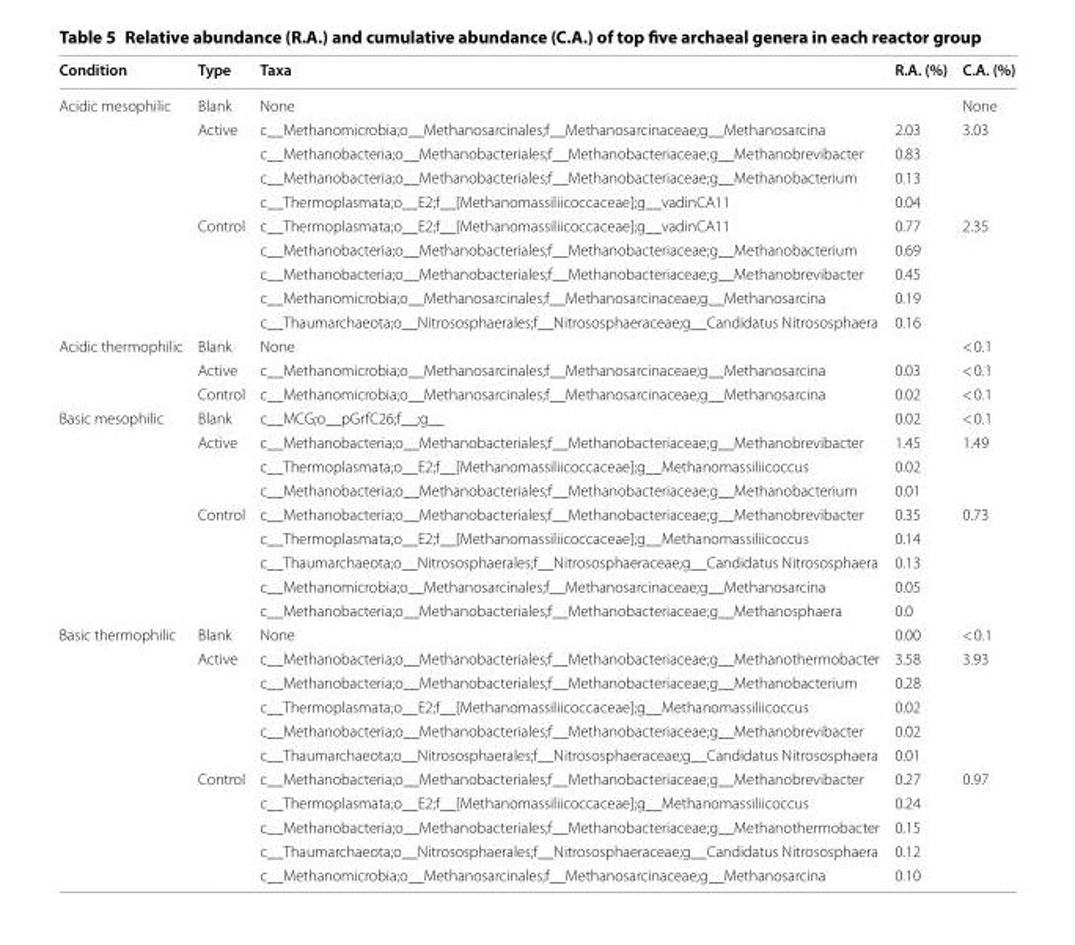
<table><thead><tr><td>Condition</td><td>Type</td><td>Taxa</td><td>R.A. (%)</td><td>C.A. (%)</td></tr></thead><tbody><tr><td rowspan="10">Acidic mesophilic</td><td>Blank</td><td>None</td><td></td><td>None</td></tr><tr><td rowspan="4">Active</td><td>c__Methanomicrobia;o__Methanosarcinales;f__Methanosarcinaceae;g__Methanosarcina</td><td>2.03</td><td rowspan="4">3.03</td></tr><tr><td>c__Methanobacteria;o__Methanobacteriales;f__Methanobacteriaceae;g__Methanobrevibacter</td><td>0.83</td></tr><tr><td>c__Methanobacteria;o__Methanobacteriales;f__Methanobacteriaceae;g__Methanobacterium</td><td>0.13</td></tr><tr><td>c__Thermoplasmata;o__E2;f__[Methanomassiliicoccaceae];g__vadinCA11</td><td>0.04</td></tr><tr><td rowspan="5">Control</td><td>c__Thermoplasmata;o__E2;f__[Methanomassiliicoccaceae];g__vadinCA11</td><td>0.77</td><td rowspan="5">2.35</td></tr><tr><td>c__Methanobacteria;o__Methanobacteriales;f__Methanobacteriaceae;g__Methanobacterium</td><td>0.69</td></tr><tr><td>c__Methanobacteria;o__Methanobacteriales;f__Methanobacteriaceae;g__Methanobrevibacter</td><td>0.45</td></tr><tr><td>c__Methanomicrobia;o__Methanosarcinales;f__Methanosarcinaceae;g__Methanosarcina</td><td>0.19</td></tr><tr><td>c__Thaumarchaeota;o__Nitrososphaerales;f__Nitrososphaeraceae;g__Candidatus Nitrososphaera</td><td>0.16</td></tr><tr><td rowspan="3">Acidic thermophilic</td><td>Blank</td><td>None</td><td></td><td>&lt; 0.1</td></tr><tr><td>Active</td><td>c__Methanomicrobia;o__Methanosarcinales;f__Methanosarcinaceae;g__Methanosarcina</td><td>0.03</td><td>&lt; 0.1</td></tr><tr><td>Control</td><td>c__Methanomicrobia;o__Methanosarcinales;f__Methanosarcinaceae;g__Methanosarcina</td><td>0.02</td><td>&lt; 0.1</td></tr><tr><td rowspan="9">Basic mesophilic</td><td>Blank</td><td>c__MCG;o__pGrfC26;f__;g__</td><td>0.02</td><td>&lt; 0.1</td></tr><tr><td rowspan="3">Active</td><td>c__Methanobacteria;o__Methanobacteriales;f__Methanobacteriaceae;g__Methanobrevibacter</td><td>1.45</td><td rowspan="3">1.49</td></tr><tr><td>c__Thermoplasmata;o__E2;f__[Methanomassiliicoccaceae];g__Methanomassiliicoccus</td><td>0.02</td></tr><tr><td>c__Methanobacteria;o__Methanobacteriales;f__Methanobacteriaceae;g__Methanobacterium</td><td>0.01</td></tr><tr><td rowspan="5">Control</td><td>c__Methanobacteria;o__Methanobacteriales;f__Methanobacteriaceae;g__Methanobrevibacter</td><td>0.35</td><td rowspan="5">0.73</td></tr><tr><td>c__Thermoplasmata;o__E2;f__[Methanomassiliicoccaceae];g__Methanomassiliicoccus</td><td>0.14</td></tr><tr><td>c__Thaumarchaeota;o__Nitrososphaerales;f__Nitrososphaeraceae;g__Candidatus Nitrososphaera</td><td>0.13</td></tr><tr><td>c__Methanomicrobia;o__Methanosarcinales;f__Methanosarcinaceae;g__Methanosarcina</td><td>0.05</td></tr><tr><td>c__Methanobacteria;o__Methanobacteriales;f__Methanobacteriaceae;g__Methanosphaera</td><td>0.0</td></tr><tr><td rowspan="11">Basic thermophilic</td><td>Blank</td><td>None</td><td>0.00</td><td>&lt; 0.1</td></tr><tr><td rowspan="5">Active</td><td>c__Methanobacteria;o__Methanobacteriales;f__Methanobacteriaceae;g__Methanothermobacter</td><td>3.58</td><td rowspan="5">3.93</td></tr><tr><td>c__Methanobacteria;o__Methanobacteriales;f__Methanobacteriaceae;g__Methanobacterium</td><td>0.28</td></tr><tr><td>c__Thermoplasmata;o__E2;f__[Methanomassiliicoccaceae];g__Methanomassiliicoccus</td><td>0.02</td></tr><tr><td>c__Methanobacteria;o__Methanobacteriales;f__Methanobacteriaceae;g__Methanobrevibacter</td><td>0.02</td></tr><tr><td>c__Thaumarchaeota;o__Nitrososphaerales;f__Nitrososphaeraceae;g__Candidatus Nitrososphaera</td><td>0.01</td></tr><tr><td rowspan="5">Control</td><td>c__Methanobacteria;o__Methanobacteriales;f__Methanobacteriaceae;g__Methanobrevibacter</td><td>0.27</td><td rowspan="5">0.97</td></tr><tr><td>c__Thermoplasmata;o__E2;f__[Methanomassiliicoccaceae];g__Methanomassiliicoccus</td><td>0.24</td></tr><tr><td>c__Methanobacteria;o__Methanobacteriales;f__Methanobacteriaceae;g__Methanothermobacter</td><td>0.15</td></tr><tr><td>c__Thaumarchaeota;o__Nitrososphaerales;f__Nitrososphaeraceae;g__Candidatus Nitrososphaera</td><td>0.12</td></tr><tr><td>c__Methanomicrobia;o__Methanosarcinales;f__Methanosarcinaceae;g__Methanosarcina</td><td>0.10</td></tr></tbody></table>